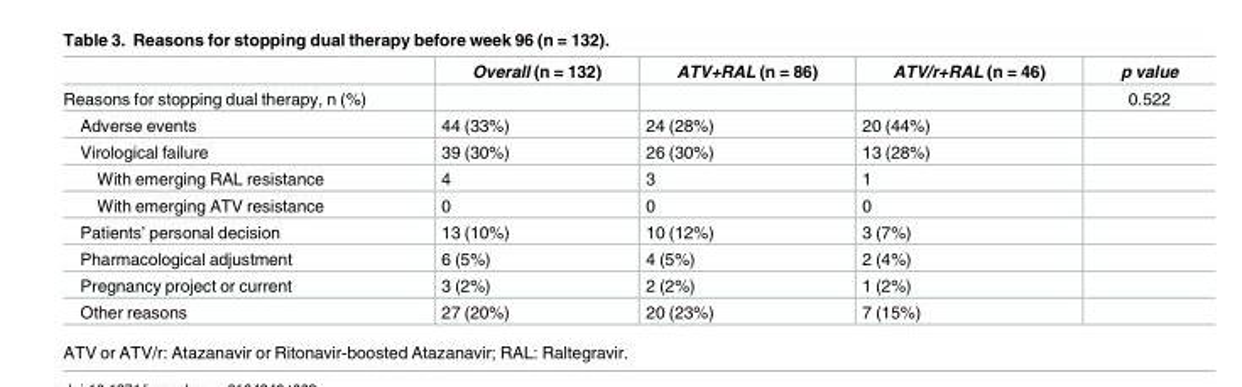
<table><thead><tr><td></td><td>Overall (n = 132)</td><td>ATV+RAL (n = 86)</td><td>ATV/r+RAL (n = 46)</td><td>p value</td></tr></thead><tbody><tr><td>Reasons for stopping dual therapy, n (%)</td><td></td><td></td><td></td><td>0.522</td></tr><tr><td>Adverse events</td><td>44 (33%)</td><td>24 (28%)</td><td>20 (44%)</td><td></td></tr><tr><td>Virological failure</td><td>39 (30%)</td><td>26 (30%)</td><td>13 (28%)</td><td></td></tr><tr><td>With emerging RAL resistance</td><td>4</td><td>3</td><td>1</td><td></td></tr><tr><td>With emerging ATV resistance</td><td>0</td><td>0</td><td>0</td><td></td></tr><tr><td>Patients’ personal decision</td><td>13 (10%)</td><td>10 (12%)</td><td>3 (7%)</td><td></td></tr><tr><td>Pharmacological adjustment</td><td>6 (5%)</td><td>4 (5%)</td><td>2 (4%)</td><td></td></tr><tr><td>Pregnancy project or current</td><td>3 (2%)</td><td>2 (2%)</td><td>1 (2%)</td><td></td></tr><tr><td>Other reasons</td><td>27 (20%)</td><td>20 (23%)</td><td>7 (15%)</td><td></td></tr></tbody></table>